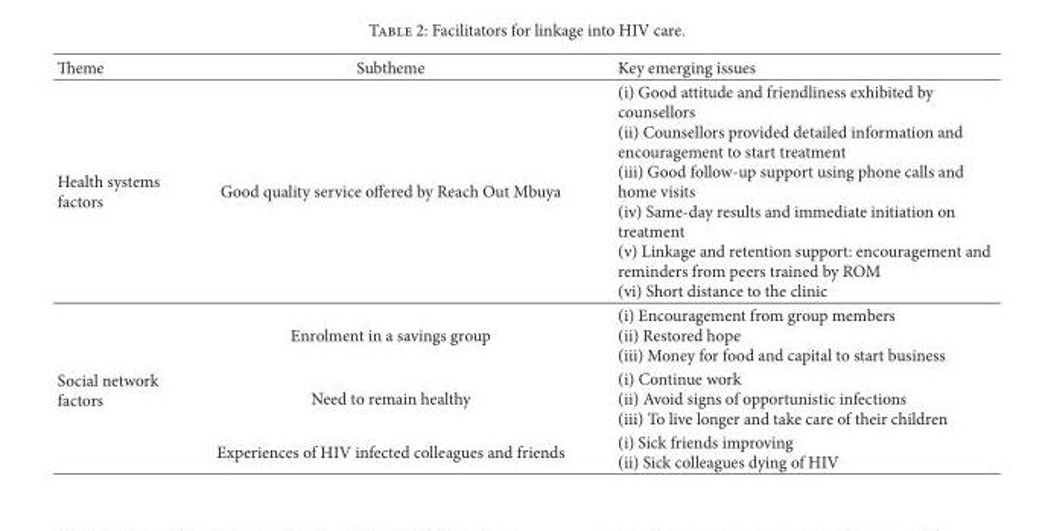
<table><thead><tr><td>Theme</td><td>Subtheme</td><td>Key emerging issues</td></tr></thead><tbody><tr><td>Health systems factors</td><td>Good quality service offered by Reach Out Mbuya</td><td>(i) Good attitude and friendliness exhibited by counsellors (ii) Counsellors provided detailed information and encouragement to start treatment (iii) Good follow-up support using phone calls and home visits (iv) Same-day results and immediate initiation on treatment (v) Linkage and retention support: encouragement and reminders from peers trained by ROM (vi) Short distance to the clinic</td></tr><tr><td rowspan="3">Social network factors</td><td>Enrolment in a savings group</td><td>(i) Encouragement from group members (ii) Restored hope (iii) Money for food and capital to start business</td></tr><tr><td>Need to remain healthy</td><td>(i) Continue work (ii) Avoid signs of opportunistic infections (iii) To live longer and take care of their children</td></tr><tr><td>Experiences of HIV infected colleagues and friends</td><td>(i) Sick friends improving (ii) Sick colleagues dying of HIV</td></tr></tbody></table>